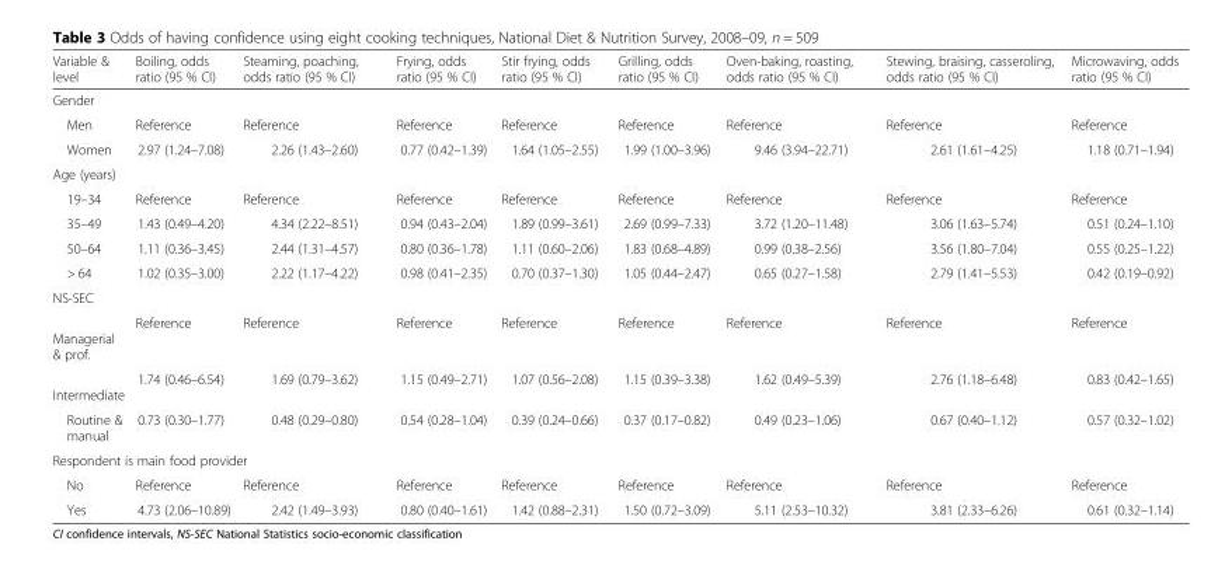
<table><thead><tr><td>Variable &amp; level</td><td>Boiling, odds ratio (95 % CI)</td><td>Steaming, poaching, odds ratio (95 % CI)</td><td>Frying, odds ratio (95 % CI)</td><td>Stir frying, odds ratio (95 % CI)</td><td>Grilling, odds ratio (95 % CI)</td><td>Oven-baking, roasting, odds ratio (95 % CI)</td><td>Stewing, braising, casseroling, odds ratio (95 % CI)</td><td>Microwaving, odds ratio (95 % CI)</td></tr></thead><tbody><tr><td colspan="9">Gender</td></tr><tr><td>Men</td><td>Reference</td><td>Reference</td><td>Reference</td><td>Reference</td><td>Reference</td><td>Reference</td><td>Reference</td><td>Reference</td></tr><tr><td>Women</td><td>2.97 (1.24–7.08)</td><td>2.26 (1.43–2.60)</td><td>0.77 (0.42–1.39)</td><td>1.64 (1.05–2.55)</td><td>1.99 (1.00–3.96)</td><td>9.46 (3.94–22.71)</td><td>2.61 (1.61–4.25)</td><td>1.18 (0.71–1.94)</td></tr><tr><td colspan="9">Age (years)</td></tr><tr><td>19–34</td><td>Reference</td><td>Reference</td><td>Reference</td><td>Reference</td><td>Reference</td><td>Reference</td><td>Reference</td><td>Reference</td></tr><tr><td>35–49</td><td>1.43 (0.49–4.20)</td><td>4.34 (2.22–8.51)</td><td>0.94 (0.43–2.04)</td><td>1.89 (0.99–3.61)</td><td>2.69 (0.99–7.33)</td><td>3.72 (1.20–11.48)</td><td>3.06 (1.63–5.74)</td><td>0.51 (0.24–1.10)</td></tr><tr><td>50–64</td><td>1.11 (0.36–3.45)</td><td>2.44 (1.31–4.57)</td><td>0.80 (0.36–1.78)</td><td>1.11 (0.60–2.06)</td><td>1.83 (0.68–4.89)</td><td>0.99 (0.38–2.56)</td><td>3.56 (1.80–7.04)</td><td>0.55 (0.25–1.22)</td></tr><tr><td>&gt; 64</td><td>1.02 (0.35–3.00)</td><td>2.22 (1.17–4.22)</td><td>0.98 (0.41–2.35)</td><td>0.70 (0.37–1.30)</td><td>1.05 (0.44–2.47)</td><td>0.65 (0.27–1.58)</td><td>2.79 (1.41–5.53)</td><td>0.42 (0.19–0.92)</td></tr><tr><td colspan="9">NS-SEC</td></tr><tr><td>Managerial &amp; prof.</td><td>Reference</td><td>Reference</td><td>Reference</td><td>Reference</td><td>Reference</td><td>Reference</td><td>Reference</td><td>Reference</td></tr><tr><td>Intermediate</td><td>1.74 (0.46–6.54)</td><td>1.69 (0.79–3.62)</td><td>1.15 (0.49–2.71)</td><td>1.07 (0.56–2.08)</td><td>1.15 (0.39–3.38)</td><td>1.62 (0.49–5.39)</td><td>2.76 (1.18–6.48)</td><td>0.83 (0.42–1.65)</td></tr><tr><td>Routine &amp; manual</td><td>0.73 (0.30–1.77)</td><td>0.48 (0.29–0.80)</td><td>0.54 (0.28–1.04)</td><td>0.39 (0.24–0.66)</td><td>0.37 (0.17–0.82)</td><td>0.49 (0.23–1.06)</td><td>0.67 (0.40–1.12)</td><td>0.57 (0.32–1.02)</td></tr><tr><td colspan="9">Respondent is main food provider</td></tr><tr><td>No</td><td>Reference</td><td>Reference</td><td>Reference</td><td>Reference</td><td>Reference</td><td>Reference</td><td>Reference</td><td>Reference</td></tr><tr><td>Yes</td><td>4.73 (2.06–10.89)</td><td>2.42 (1.49–3.93)</td><td>0.80 (0.40–1.61)</td><td>1.42 (0.88–2.31)</td><td>1.50 (0.72–3.09)</td><td>5.11 (2.53–10.32)</td><td>3.81 (2.33–6.26)</td><td>0.61 (0.32–1.14)</td></tr></tbody></table>